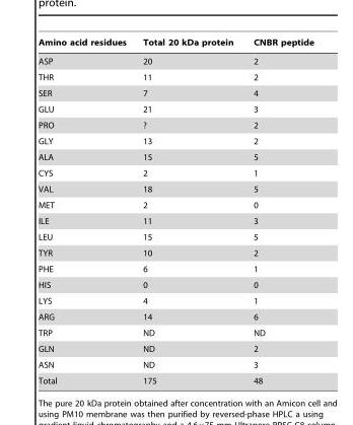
<table><thead><tr><td>Amino acid residues</td><td>Total 20 kDa protein</td><td>CNBR peptide</td></tr></thead><tbody><tr><td>ASP</td><td>20</td><td>2</td></tr><tr><td>THR</td><td>11</td><td>2</td></tr><tr><td>SER</td><td>7</td><td>4</td></tr><tr><td>GLU</td><td>21</td><td>3</td></tr><tr><td>PRO</td><td>?</td><td>2</td></tr><tr><td>GLY</td><td>13</td><td>2</td></tr><tr><td>ALA</td><td>15</td><td>5</td></tr><tr><td>CYS</td><td>2</td><td>1</td></tr><tr><td>VAL</td><td>18</td><td>5</td></tr><tr><td>MET</td><td>2</td><td>0</td></tr><tr><td>ILE</td><td>11</td><td>3</td></tr><tr><td>LEU</td><td>15</td><td>5</td></tr><tr><td>TYR</td><td>10</td><td>2</td></tr><tr><td>PHE</td><td>6</td><td>1</td></tr><tr><td>HIS</td><td>0</td><td>0</td></tr><tr><td>LYS</td><td>4</td><td>1</td></tr><tr><td>ARG</td><td>14</td><td>6</td></tr><tr><td>TRP</td><td>ND</td><td>ND</td></tr><tr><td>GLN</td><td>ND</td><td>2</td></tr><tr><td>ASN</td><td>ND</td><td>3</td></tr><tr><td>Total</td><td>175</td><td>48</td></tr></tbody></table>